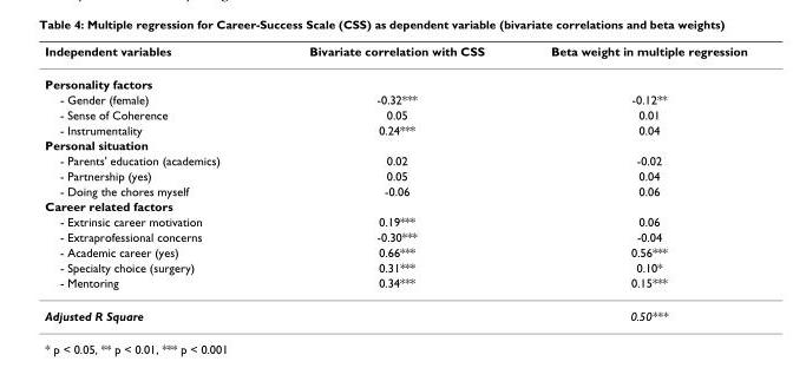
<table><thead><tr><td>Independent variables</td><td>Bivariate correlation with CSS</td><td>Beta weight in multiple regression</td></tr></thead><tbody><tr><td colspan="3">Personality factors</td></tr><tr><td>- Gender (female)</td><td>-0.32***</td><td>-0.12**</td></tr><tr><td>- Sense of Coherence</td><td>0.05</td><td>0.01</td></tr><tr><td>- Instrumentality</td><td>0.24***</td><td>0.04</td></tr><tr><td colspan="3">Personal situation</td></tr><tr><td>- Parents&#x27; education (academics)</td><td>0.02</td><td>-0.02</td></tr><tr><td>- Partnership (yes)</td><td>0.05</td><td>0.04</td></tr><tr><td>- Doing the chores myself</td><td>-0.06</td><td>0.06</td></tr><tr><td colspan="3">Career related factors</td></tr><tr><td>- Extrinsic career motivation</td><td>0.19***</td><td>0.06</td></tr><tr><td>- Extraprofessional concerns</td><td>-0.30***</td><td>-0.04</td></tr><tr><td>- Academic career (yes)</td><td>0.66***</td><td>0.56***</td></tr><tr><td>- Specialty choice (surgery)</td><td>0.31***</td><td>0.10*</td></tr><tr><td>- Mentoring</td><td>0.34***</td><td>0.15***</td></tr><tr><td>Adjusted R Square</td><td></td><td>0.50***</td></tr></tbody></table>